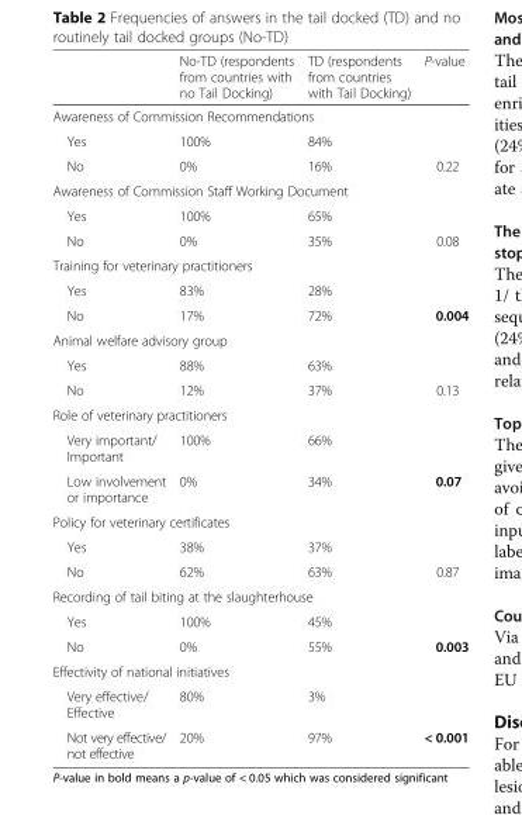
<table><thead><tr><td></td><td>No-TD (respondents from countries with no Tail Docking)</td><td>TD (respondents from countries with Tail Docking)</td><td>P-value</td></tr></thead><tbody><tr><td colspan="4">Awareness of Commission Recommendations</td></tr><tr><td>Yes</td><td>100%</td><td>84%</td><td></td></tr><tr><td>No</td><td>0%</td><td>16%</td><td>0.22</td></tr><tr><td colspan="4">Awareness of Commission Staff Working Document</td></tr><tr><td>Yes</td><td>100%</td><td>65%</td><td></td></tr><tr><td>No</td><td>0%</td><td>35%</td><td>0.08</td></tr><tr><td colspan="4">Training for veterinary practitioners</td></tr><tr><td>Yes</td><td>83%</td><td>28%</td><td></td></tr><tr><td>No</td><td>17%</td><td>72%</td><td>0.004</td></tr><tr><td colspan="4">Animal welfare advisory group</td></tr><tr><td>Yes</td><td>88%</td><td>63%</td><td></td></tr><tr><td>No</td><td>12%</td><td>37%</td><td>0.13</td></tr><tr><td colspan="4">Role of veterinary practitioners</td></tr><tr><td>Very important/ Important</td><td>100%</td><td>66%</td><td></td></tr><tr><td>Low involvement or importance</td><td>0%</td><td>34%</td><td>0.07</td></tr><tr><td colspan="4">Policy for veterinary certificates</td></tr><tr><td>Yes</td><td>38%</td><td>37%</td><td></td></tr><tr><td>No</td><td>62%</td><td>63%</td><td>0.87</td></tr><tr><td colspan="4">Recording of tail biting at the slaughterhouse</td></tr><tr><td>Yes</td><td>100%</td><td>45%</td><td></td></tr><tr><td>No</td><td>0%</td><td>55%</td><td>0.003</td></tr><tr><td colspan="4">Effectivity of national initiatives</td></tr><tr><td>Very effective/ Effective</td><td>80%</td><td>3%</td><td></td></tr><tr><td>Not very effective/ not effective</td><td>20%</td><td>97%</td><td>&lt; 0.001</td></tr></tbody></table>